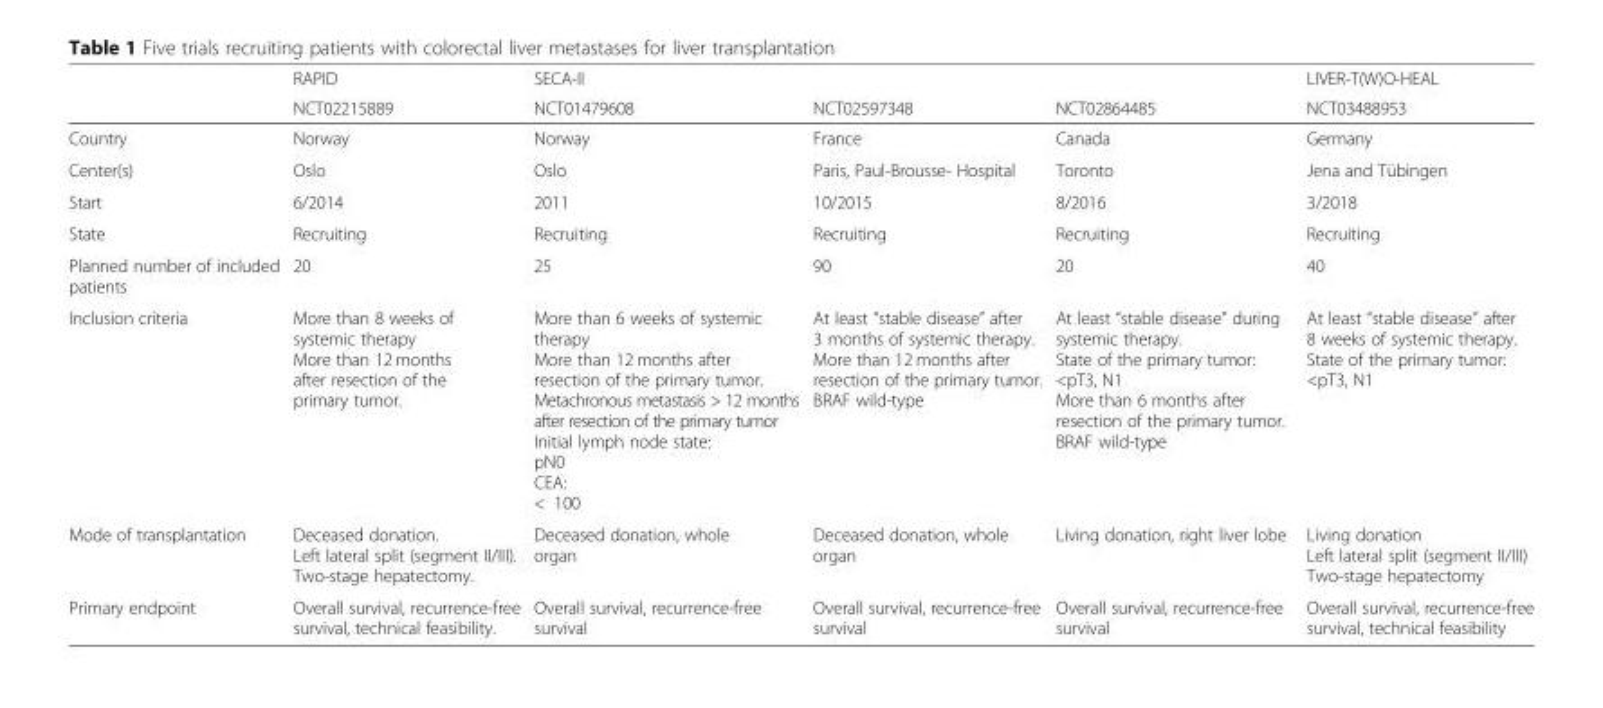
<table><thead><tr><td rowspan="2"></td><td rowspan="2">RAPID NCT02215889</td><td rowspan="2">SECA-II NCT01479608</td><td rowspan="2">NCT02597348</td><td rowspan="2">NCT02864485</td><td rowspan="2">LIVER-T(W)O-HEAL NCT03488953</td></tr><tr></tr></thead><tbody><tr><td>Country</td><td>Norway</td><td>Norway</td><td>France</td><td>Canada</td><td>Germany</td></tr><tr><td>Center(s)</td><td>Oslo</td><td>Oslo</td><td>Paris, Paul-Brousse- Hospital</td><td>Toronto</td><td>Jena and Tübingen</td></tr><tr><td>Start</td><td>6/2014</td><td>2011</td><td>10/2015</td><td>8/2016</td><td>3/2018</td></tr><tr><td>State</td><td>Recruiting</td><td>Recruiting</td><td>Recruiting</td><td>Recruiting</td><td>Recruiting</td></tr><tr><td>Planned number of included patients</td><td>20</td><td>25</td><td>90</td><td>20</td><td>40</td></tr><tr><td>Inclusion criteria</td><td>More than 8 weeks of systemic therapy More than 12 months after resection of the primary tumor.</td><td>More than 6 weeks of systemic therapy More than 12 months after resection of the primary tumor. Metachronous metastasis &gt; 12 months after resection of the primary tumor Initial lymph node state: pN0 CEA: &lt; 100</td><td>At least “stable disease” after 3 months of systemic therapy. More than 12 months after resection of the primary tumor. BRAF wild-type</td><td>At least “stable disease” during systemic therapy. State of the primary tumor: &lt;pT3, N1 More than 6 months after resection of the primary tumor. BRAF wild-type</td><td>At least “stable disease” after 8 weeks of systemic therapy. State of the primary tumor: &lt;pT3, N1</td></tr><tr><td>Mode of transplantation</td><td>Deceased donation. Left lateral split (segment II/III). Two-stage hepatectomy.</td><td>Deceased donation, whole organ</td><td>Deceased donation, whole organ</td><td>Living donation, right liver lobe</td><td>Living donation Left lateral split (segment II/III) Two-stage hepatectomy</td></tr><tr><td>Primary endpoint</td><td>Overall survival, recurrence-free survival, technical feasibility.</td><td>Overall survival, recurrence-free survival</td><td>Overall survival, recurrence-free survival</td><td>Overall survival, recurrence-free survival</td><td>Overall survival, recurrence-free survival, technical feasibility</td></tr></tbody></table>